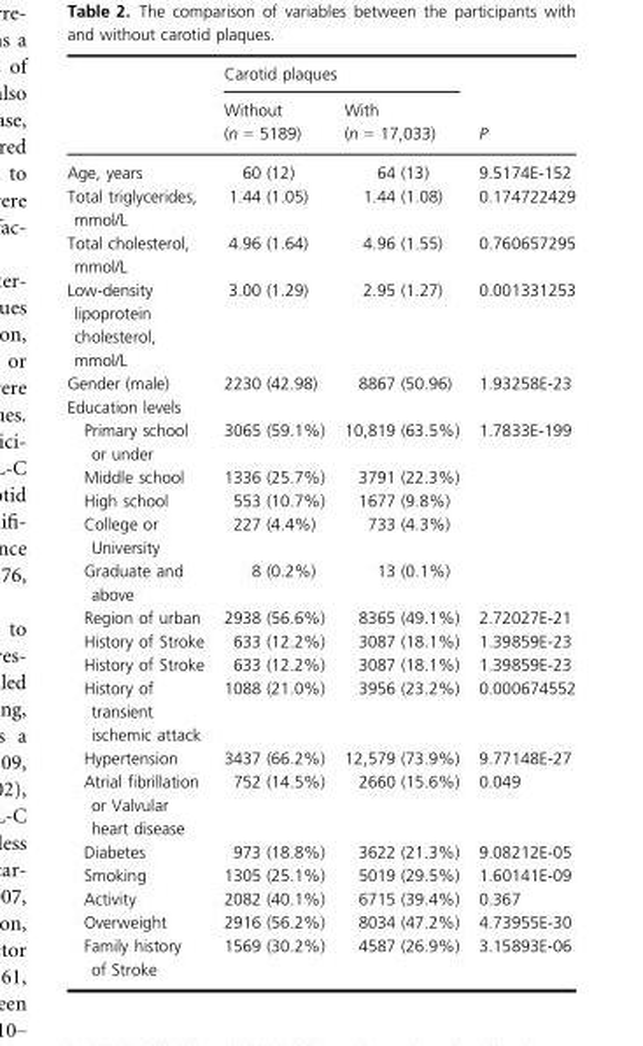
<table><thead><tr><td rowspan="2"></td><td colspan="2">Carotid plaques</td><td rowspan="2">P</td></tr><tr><td>Without (n = 5189)</td><td>With (n = 17,033)</td></tr></thead><tbody><tr><td>Age, years</td><td>60 (12)</td><td>64 (13)</td><td>9.5174E-152</td></tr><tr><td>Total triglycerides, mmol/L</td><td>1.44 (1.05)</td><td>1.44 (1.08)</td><td>0.174722429</td></tr><tr><td>Total cholesterol, mmol/L</td><td>4.96 (1.64)</td><td>4.96 (1.55)</td><td>0.760657295</td></tr><tr><td>Low-density lipoprotein cholesterol, mmol/L</td><td>3.00 (1.29)</td><td>2.95 (1.27)</td><td>0.001331253</td></tr><tr><td>Gender (male)</td><td>2230 (42.98)</td><td>8867 (50.96)</td><td>1.93258E-23</td></tr><tr><td colspan="4">Education levels</td></tr><tr><td>Primary school or under</td><td>3065 (59.1%)</td><td>10,819 (63.5%)</td><td rowspan="5">1.7833E-199</td></tr><tr><td>Middle school</td><td>1336 (25.7%)</td><td>3791 (22.3%)</td></tr><tr><td>High school</td><td>553 (10.7%)</td><td>1677 (9.8%)</td></tr><tr><td>College or University</td><td>227 (4.4%)</td><td>733 (4.3%)</td></tr><tr><td>Graduate and above</td><td>8 (0.2%)</td><td>13 (0.1%)</td></tr><tr><td>Region of urban</td><td>2938 (56.6%)</td><td>8365 (49.1%)</td><td>2.72027E-21</td></tr><tr><td>History of Stroke</td><td>633 (12.2%)</td><td>3087 (18.1%)</td><td>1.39859E-23</td></tr><tr><td>History of Stroke</td><td>633 (12.2%)</td><td>3087 (18.1%)</td><td>1.39859E-23</td></tr><tr><td>History of transient ischemic attack</td><td>1088 (21.0%)</td><td>3956 (23.2%)</td><td>0.000674552</td></tr><tr><td>Hypertension</td><td>3437 (66.2%)</td><td>12,579 (73.9%)</td><td>9.77148E-27</td></tr><tr><td>Atrial fibrillation or Valvular heart disease</td><td>752 (14.5%)</td><td>2660 (15.6%)</td><td>0.049</td></tr><tr><td>Diabetes</td><td>973 (18.8%)</td><td>3622 (21.3%)</td><td>9.08212E-05</td></tr><tr><td>Smoking</td><td>1305 (25.1%)</td><td>5019 (29.5%)</td><td>1.60141E-09</td></tr><tr><td>Activity</td><td>2082 (40.1%)</td><td>6715 (39.4%)</td><td>0.367</td></tr><tr><td>Overweight</td><td>2916 (56.2%)</td><td>8034 (47.2%)</td><td>4.73955E-30</td></tr><tr><td>Family history of Stroke</td><td>1569 (30.2%)</td><td>4587 (26.9%)</td><td>3.15893E-06</td></tr></tbody></table>